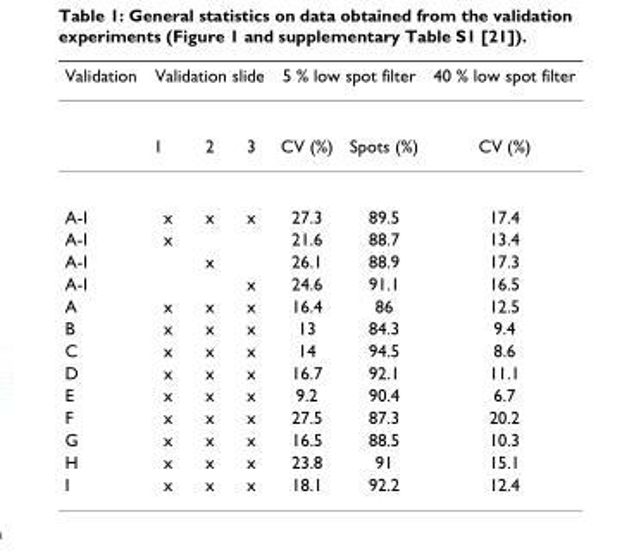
<table><thead><tr><td rowspan="2">Validation</td><td colspan="3">Validation slide</td><td colspan="2">5 % low spot filter</td><td rowspan="2">40 % low spot filter CV (%)</td></tr><tr><td>1</td><td>2</td><td>3</td><td>CV (%)</td><td>Spots (%)</td></tr></thead><tbody><tr><td>A-I</td><td>x</td><td>x</td><td>x</td><td>27.3</td><td>89.5</td><td>17.4</td></tr><tr><td>A-I</td><td>x</td><td></td><td></td><td>21.6</td><td>88.7</td><td>13.4</td></tr><tr><td>A-I</td><td></td><td>x</td><td></td><td>26.1</td><td>88.9</td><td>17.3</td></tr><tr><td>A-I</td><td></td><td></td><td>x</td><td>24.6</td><td>91.1</td><td>16.5</td></tr><tr><td>A</td><td>x</td><td>x</td><td>x</td><td>16.4</td><td>86</td><td>12.5</td></tr><tr><td>B</td><td>x</td><td>x</td><td>x</td><td>13</td><td>84.3</td><td>9.4</td></tr><tr><td>C</td><td>x</td><td>x</td><td>x</td><td>14</td><td>94.5</td><td>8.6</td></tr><tr><td>D</td><td>x</td><td>x</td><td>x</td><td>16.7</td><td>92.1</td><td>11.1</td></tr><tr><td>E</td><td>x</td><td>x</td><td>x</td><td>9.2</td><td>90.4</td><td>6.7</td></tr><tr><td>F</td><td>x</td><td>x</td><td>x</td><td>27.5</td><td>87.3</td><td>20.2</td></tr><tr><td>G</td><td>x</td><td>x</td><td>x</td><td>16.5</td><td>88.5</td><td>10.3</td></tr><tr><td>H</td><td>x</td><td>x</td><td>x</td><td>23.8</td><td>91</td><td>15.1</td></tr><tr><td>I</td><td>x</td><td>x</td><td>x</td><td>18.1</td><td>92.2</td><td>12.4</td></tr></tbody></table>